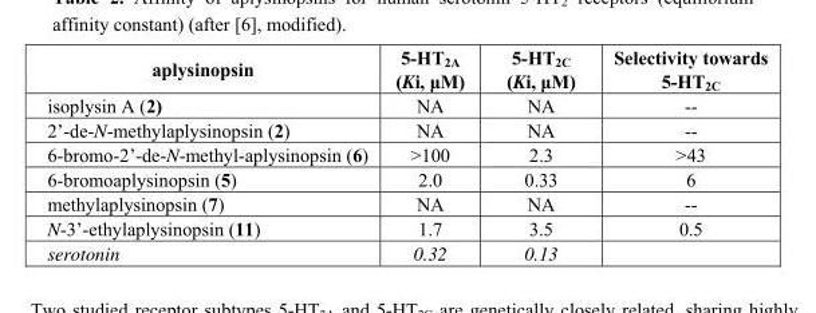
<table><thead><tr><td>aplysinopsin</td><td>5-HT<sub>2A</sub> (Ki, μM)</td><td>5-HT<sub>2C</sub> (Ki, μM)</td><td>Selectivity towards 5-HT<sub>2C</sub></td></tr></thead><tbody><tr><td>isoplysin A (2)</td><td>NA</td><td>NA</td><td>--</td></tr><tr><td>2’-de-N-methylaplysinopsin (2)</td><td>NA</td><td>NA</td><td>--</td></tr><tr><td>6-bromo-2’-de-N-methyl-aplysinopsin (6)</td><td>&gt;100</td><td>2.3</td><td>&gt;43</td></tr><tr><td>6-bromoaplysinopsin (5)</td><td>2.0</td><td>0.33</td><td>6</td></tr><tr><td>methylaplysinopsin (7)</td><td>NA</td><td>NA</td><td>--</td></tr><tr><td>N-3’-ethylaplysinopsin (11)</td><td>1.7</td><td>3.5</td><td>0.5</td></tr><tr><td>serotonin</td><td>0.32</td><td>0.13</td><td></td></tr></tbody></table>